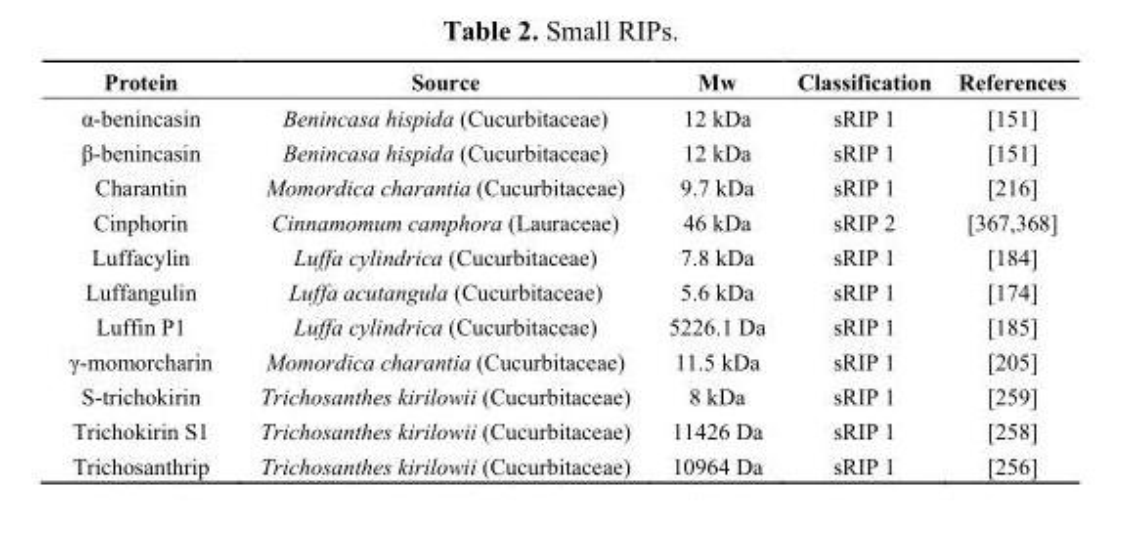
<table><thead><tr><td>Protein</td><td>Source</td><td>Mw</td><td>Classification</td><td>References</td></tr></thead><tbody><tr><td>α-benincasin</td><td>Benincasa hispida (Cucurbitaceae)</td><td>12 kDa</td><td>sRIP 1</td><td>[151]</td></tr><tr><td>β-benincasin</td><td>Benincasa hispida (Cucurbitaceae)</td><td>12 kDa</td><td>sRIP 1</td><td>[151]</td></tr><tr><td>Charantin</td><td>Momordica charantia (Cucurbitaceae)</td><td>9.7 kDa</td><td>sRIP 1</td><td>[216]</td></tr><tr><td>Cinphorin</td><td>Cinnamomum camphora (Lauraceae)</td><td>46 kDa</td><td>sRIP 2</td><td>[367,368]</td></tr><tr><td>Luffacylin</td><td>Luffa cylindrica (Cucurbitaceae)</td><td>7.8 kDa</td><td>sRIP 1</td><td>[184]</td></tr><tr><td>Luffangulin</td><td>Luffa acutangula (Cucurbitaceae)</td><td>5.6 kDa</td><td>sRIP 1</td><td>[174]</td></tr><tr><td>Luffin P1</td><td>Luffa cylindrica (Cucurbitaceae)</td><td>5226.1 Da</td><td>sRIP 1</td><td>[185]</td></tr><tr><td>γ-momorcharin</td><td>Momordica charantia (Cucurbitaceae)</td><td>11.5 kDa</td><td>sRIP 1</td><td>[205]</td></tr><tr><td>S-trichokirin</td><td>Trichosanthes kirilowii (Cucurbitaceae)</td><td>8 kDa</td><td>sRIP 1</td><td>[259]</td></tr><tr><td>Trichokirin S1</td><td>Trichosanthes kirilowii (Cucurbitaceae)</td><td>11426 Da</td><td>sRIP 1</td><td>[258]</td></tr><tr><td>Trichosanthrip</td><td>Trichosanthes kirilowii (Cucurbitaceae)</td><td>10964 Da</td><td>sRIP 1</td><td>[256]</td></tr></tbody></table>